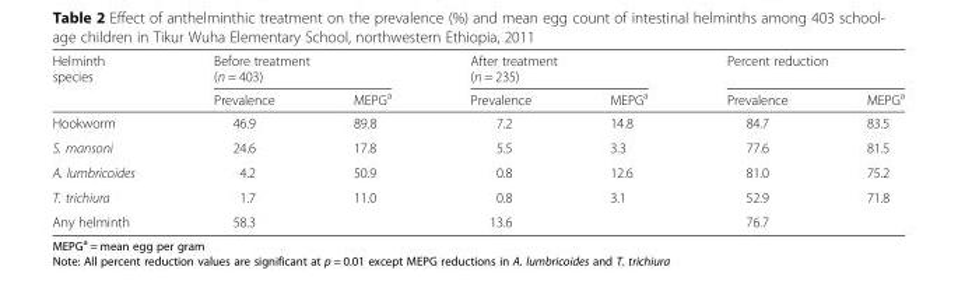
<table><thead><tr><td rowspan="2">Helminth species</td><td colspan="2">Before treatment (n = 403)</td><td colspan="2">After treatment (n = 235)</td><td colspan="2">Percent reduction</td></tr><tr><td>Prevalence</td><td>MEPG<sup>a</sup></td><td>Prevalence</td><td>MEPG<sup>a</sup></td><td>Prevalence</td><td>MEPG<sup>a</sup></td></tr></thead><tbody><tr><td>Hookworm</td><td>46.9</td><td>89.8</td><td>7.2</td><td>14.8</td><td>84.7</td><td>83.5</td></tr><tr><td>S. mansoni</td><td>24.6</td><td>17.8</td><td>5.5</td><td>3.3</td><td>77.6</td><td>81.5</td></tr><tr><td>A. lumbricoides</td><td>4.2</td><td>50.9</td><td>0.8</td><td>12.6</td><td>81.0</td><td>75.2</td></tr><tr><td>T. trichiura</td><td>1.7</td><td>11.0</td><td>0.8</td><td>3.1</td><td>52.9</td><td>71.8</td></tr><tr><td>Any helminth</td><td>58.3</td><td></td><td>13.6</td><td></td><td>76.7</td><td></td></tr></tbody></table>